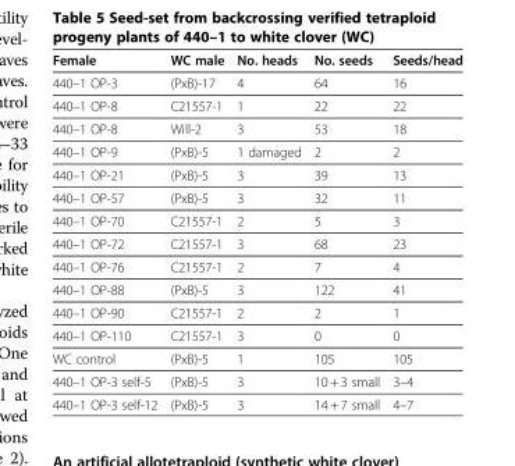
<table><thead><tr><td>Female</td><td>WC male</td><td>No. heads</td><td>No. seeds</td><td>Seeds/head</td></tr></thead><tbody><tr><td>440–1 OP-3</td><td>(PxB)-17</td><td>4</td><td>64</td><td>16</td></tr><tr><td>440–1 OP-8</td><td>C21557-1</td><td>1</td><td>22</td><td>22</td></tr><tr><td>440–1 OP-8</td><td>Will-2</td><td>3</td><td>53</td><td>18</td></tr><tr><td>440–1 OP-9</td><td>(PxB)-5</td><td>1 damaged</td><td>2</td><td>2</td></tr><tr><td>440–1 OP-21</td><td>(PxB)-5</td><td>3</td><td>39</td><td>13</td></tr><tr><td>440–1 OP-57</td><td>(PxB)-5</td><td>3</td><td>32</td><td>11</td></tr><tr><td>440–1 OP-70</td><td>C21557-1</td><td>2</td><td>5</td><td>3</td></tr><tr><td>440–1 OP-72</td><td>C21557-1</td><td>3</td><td>68</td><td>23</td></tr><tr><td>440–1 OP-76</td><td>C21557-1</td><td>2</td><td>7</td><td>4</td></tr><tr><td>440–1 OP-88</td><td>(PxB)-5</td><td>3</td><td>122</td><td>41</td></tr><tr><td>440–1 OP-90</td><td>C21557-1</td><td>2</td><td>2</td><td>1</td></tr><tr><td>440–1 OP-110</td><td>C21557-1</td><td>3</td><td>0</td><td>0</td></tr><tr><td>WC control</td><td>(PxB)-5</td><td>1</td><td>105</td><td>105</td></tr><tr><td>440–1 OP-3 self-5</td><td>(PxB)-5</td><td>3</td><td>10 + 3 small</td><td>3–4</td></tr><tr><td>440–1 OP-3 self-12</td><td>(PxB)-5</td><td>3</td><td>14 + 7 small</td><td>4–7</td></tr></tbody></table>